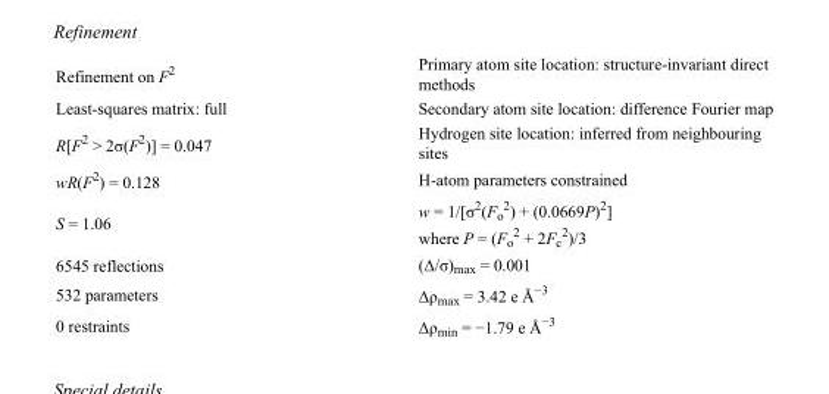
<table><tbody><tr><td>Refinement on F<sup>2</sup></td><td>Primary atom site location: structure-invariant direct methods</td></tr><tr><td>Least-squares matrix: full</td><td>Secondary atom site location: difference Fourier map</td></tr><tr><td>R[F<sup>2</sup> &gt; 2σ(F<sup>2</sup>)] = 0.047</td><td>Hydrogen site location: inferred from neighbouring sites</td></tr><tr><td>wR(F<sup>2</sup>) = 0.128</td><td>H-atom parameters constrained</td></tr><tr><td>S = 1.06</td><td>w = 1/[σ<sup>2</sup>(F<sub>o</sub> <sup>2</sup>) + (0.0669P)<sup>2</sup>] where P = (F<sub>o</sub> <sup>2</sup> + 2F<sub>c</sub> <sup>2</sup>)/3</td></tr><tr><td>6545 reflections</td><td>(Δ/σ)<sub>max</sub> = 0.001</td></tr><tr><td>532 parameters</td><td>Δρ<sub>max</sub> = 3.42 e Å<sup>−3</sup></td></tr><tr><td>0 restraints</td><td>Δρ<sub>min</sub> = −1.79 e Å<sup>−3</sup></td></tr></tbody></table>